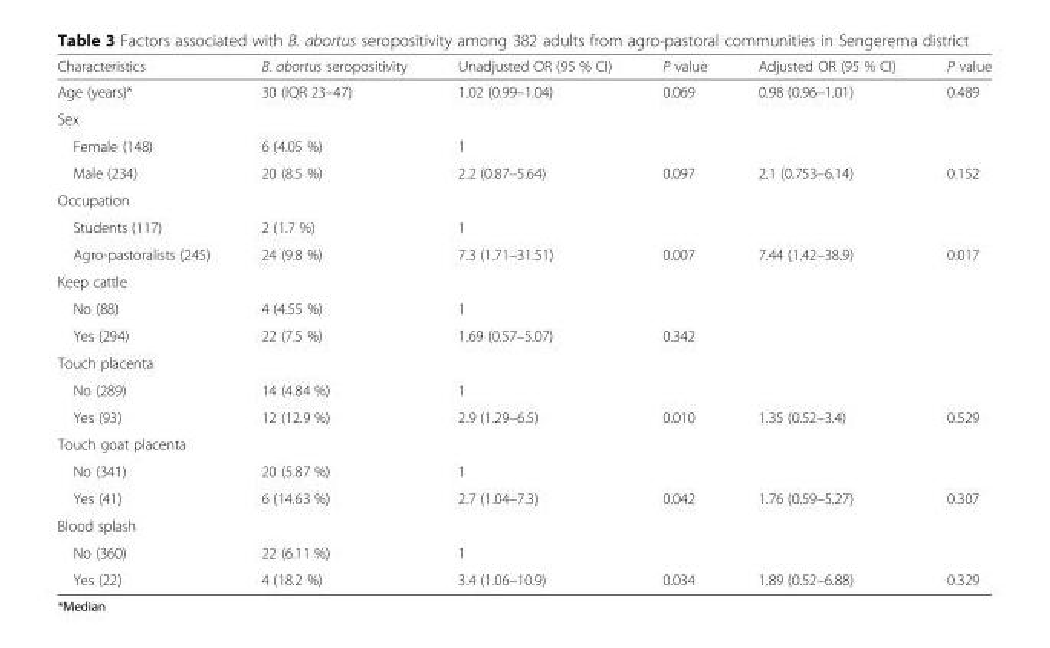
<table><thead><tr><td>Characteristics</td><td>B. abortus seropositivity</td><td>Unadjusted OR (95 % CI)</td><td>P value</td><td>Adjusted OR (95 % CI)</td><td>P value</td></tr></thead><tbody><tr><td>Age (years)*</td><td>30 (IQR 23–47)</td><td>1.02 (0.99–1.04)</td><td>0.069</td><td>0.98 (0.96–1.01)</td><td>0.489</td></tr><tr><td colspan="6">Sex</td></tr><tr><td>Female (148)</td><td>6 (4.05 %)</td><td>1</td><td></td><td></td><td></td></tr><tr><td>Male (234)</td><td>20 (8.5 %)</td><td>2.2 (0.87–5.64)</td><td>0.097</td><td>2.1 (0.753–6.14)</td><td>0.152</td></tr><tr><td colspan="6">Occupation</td></tr><tr><td>Students (117)</td><td>2 (1.7 %)</td><td>1</td><td></td><td></td><td></td></tr><tr><td>Agro-pastoralists (245)</td><td>24 (9.8 %)</td><td>7.3 (1.71–31.51)</td><td>0.007</td><td>7.44 (1.42–38.9)</td><td>0.017</td></tr><tr><td colspan="6">Keep cattle</td></tr><tr><td>No (88)</td><td>4 (4.55 %)</td><td>1</td><td></td><td></td><td></td></tr><tr><td>Yes (294)</td><td>22 (7.5 %)</td><td>1.69 (0.57–5.07)</td><td>0.342</td><td></td><td></td></tr><tr><td colspan="6">Touch placenta</td></tr><tr><td>No (289)</td><td>14 (4.84 %)</td><td>1</td><td></td><td></td><td></td></tr><tr><td>Yes (93)</td><td>12 (12.9 %)</td><td>2.9 (1.29–6.5)</td><td>0.010</td><td>1.35 (0.52–3.4)</td><td>0.529</td></tr><tr><td colspan="6">Touch goat placenta</td></tr><tr><td>No (341)</td><td>20 (5.87 %)</td><td>1</td><td></td><td></td><td></td></tr><tr><td>Yes (41)</td><td>6 (14.63 %)</td><td>2.7 (1.04–7.3)</td><td>0.042</td><td>1.76 (0.59–5.27)</td><td>0.307</td></tr><tr><td colspan="6">Blood splash</td></tr><tr><td>No (360)</td><td>22 (6.11 %)</td><td>1</td><td></td><td></td><td></td></tr><tr><td>Yes (22)</td><td>4 (18.2 %)</td><td>3.4 (1.06–10.9)</td><td>0.034</td><td>1.89 (0.52–6.88)</td><td>0.329</td></tr></tbody></table>